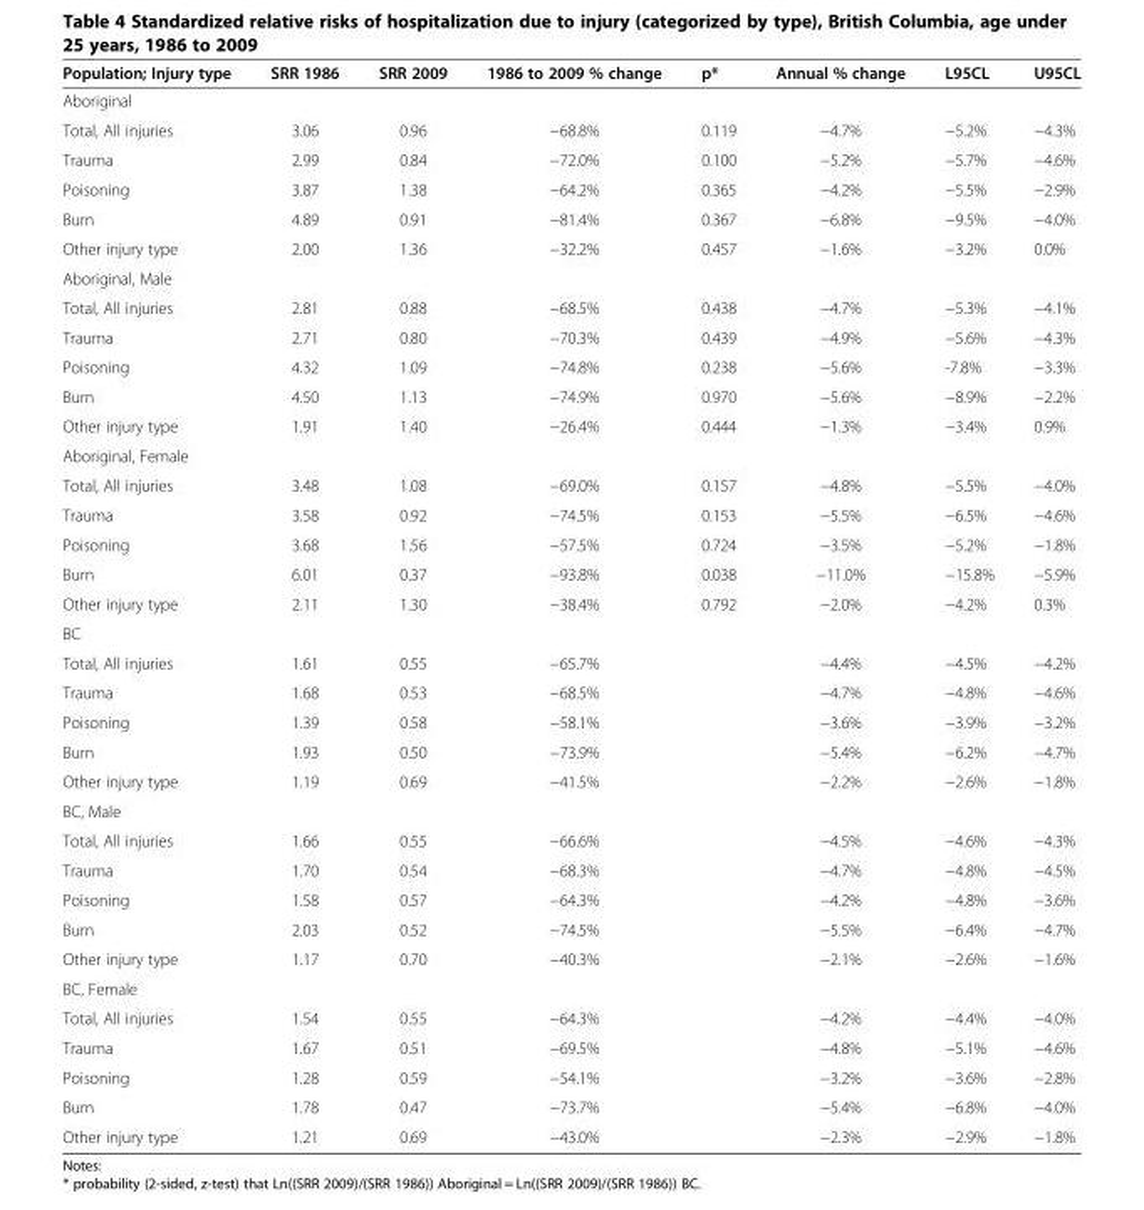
<table><thead><tr><td>Population; Injury type</td><td>SRR 1986</td><td>SRR 2009</td><td>1986 to 2009 % change</td><td>p*</td><td>Annual % change</td><td>L95CL</td><td>U95CL</td></tr></thead><tbody><tr><td colspan="8">Aboriginal</td></tr><tr><td>Total, All injuries</td><td>3.06</td><td>0.96</td><td>−68.8%</td><td>0.119</td><td>−4.7%</td><td>−5.2%</td><td>−4.3%</td></tr><tr><td>Trauma</td><td>2.99</td><td>0.84</td><td>−72.0%</td><td>0.100</td><td>−5.2%</td><td>−5.7%</td><td>−4.6%</td></tr><tr><td>Poisoning</td><td>3.87</td><td>1.38</td><td>−64.2%</td><td>0.365</td><td>−4.2%</td><td>−5.5%</td><td>−2.9%</td></tr><tr><td>Burn</td><td>4.89</td><td>0.91</td><td>−81.4%</td><td>0.367</td><td>−6.8%</td><td>−9.5%</td><td>−4.0%</td></tr><tr><td>Other injury type</td><td>2.00</td><td>1.36</td><td>−32.2%</td><td>0.457</td><td>−1.6%</td><td>−3.2%</td><td>0.0%</td></tr><tr><td colspan="8">Aboriginal, Male</td></tr><tr><td>Total, All injuries</td><td>2.81</td><td>0.88</td><td>−68.5%</td><td>0.438</td><td>−4.7%</td><td>−5.3%</td><td>−4.1%</td></tr><tr><td>Trauma</td><td>2.71</td><td>0.80</td><td>−70.3%</td><td>0.439</td><td>−4.9%</td><td>−5.6%</td><td>−4.3%</td></tr><tr><td>Poisoning</td><td>4.32</td><td>1.09</td><td>−74.8%</td><td>0.238</td><td>−5.6%</td><td>-7.8%</td><td>−3.3%</td></tr><tr><td>Burn</td><td>4.50</td><td>1.13</td><td>−74.9%</td><td>0.970</td><td>−5.6%</td><td>−8.9%</td><td>−2.2%</td></tr><tr><td>Other injury type</td><td>1.91</td><td>1.40</td><td>−26.4%</td><td>0.444</td><td>−1.3%</td><td>−3.4%</td><td>0.9%</td></tr><tr><td colspan="8">Aboriginal, Female</td></tr><tr><td>Total, All injuries</td><td>3.48</td><td>1.08</td><td>−69.0%</td><td>0.157</td><td>−4.8%</td><td>−5.5%</td><td>−4.0%</td></tr><tr><td>Trauma</td><td>3.58</td><td>0.92</td><td>−74.5%</td><td>0.153</td><td>−5.5%</td><td>−6.5%</td><td>−4.6%</td></tr><tr><td>Poisoning</td><td>3.68</td><td>1.56</td><td>−57.5%</td><td>0.724</td><td>−3.5%</td><td>−5.2%</td><td>−1.8%</td></tr><tr><td>Burn</td><td>6.01</td><td>0.37</td><td>−93.8%</td><td>0.038</td><td>−11.0%</td><td>−15.8%</td><td>−5.9%</td></tr><tr><td>Other injury type</td><td>2.11</td><td>1.30</td><td>−38.4%</td><td>0.792</td><td>−2.0%</td><td>−4.2%</td><td>0.3%</td></tr><tr><td colspan="8">BC</td></tr><tr><td>Total, All injuries</td><td>1.61</td><td>0.55</td><td>−65.7%</td><td></td><td>−4.4%</td><td>−4.5%</td><td>−4.2%</td></tr><tr><td>Trauma</td><td>1.68</td><td>0.53</td><td>−68.5%</td><td></td><td>−4.7%</td><td>−4.8%</td><td>−4.6%</td></tr><tr><td>Poisoning</td><td>1.39</td><td>0.58</td><td>−58.1%</td><td></td><td>−3.6%</td><td>−3.9%</td><td>−3.2%</td></tr><tr><td>Burn</td><td>1.93</td><td>0.50</td><td>−73.9%</td><td></td><td>−5.4%</td><td>−6.2%</td><td>−4.7%</td></tr><tr><td>Other injury type</td><td>1.19</td><td>0.69</td><td>−41.5%</td><td></td><td>−2.2%</td><td>−2.6%</td><td>−1.8%</td></tr><tr><td colspan="8">BC, Male</td></tr><tr><td>Total, All injuries</td><td>1.66</td><td>0.55</td><td>−66.6%</td><td></td><td>−4.5%</td><td>−4.6%</td><td>−4.3%</td></tr><tr><td>Trauma</td><td>1.70</td><td>0.54</td><td>−68.3%</td><td></td><td>−4.7%</td><td>−4.8%</td><td>−4.5%</td></tr><tr><td>Poisoning</td><td>1.58</td><td>0.57</td><td>−64.3%</td><td></td><td>−4.2%</td><td>−4.8%</td><td>−3.6%</td></tr><tr><td>Burn</td><td>2.03</td><td>0.52</td><td>−74.5%</td><td></td><td>−5.5%</td><td>−6.4%</td><td>−4.7%</td></tr><tr><td>Other injury type</td><td>1.17</td><td>0.70</td><td>−40.3%</td><td></td><td>−2.1%</td><td>−2.6%</td><td>−1.6%</td></tr><tr><td colspan="8">BC, Female</td></tr><tr><td>Total, All injuries</td><td>1.54</td><td>0.55</td><td>−64.3%</td><td></td><td>−4.2%</td><td>−4.4%</td><td>−4.0%</td></tr><tr><td>Trauma</td><td>1.67</td><td>0.51</td><td>−69.5%</td><td></td><td>−4.8%</td><td>−5.1%</td><td>−4.6%</td></tr><tr><td>Poisoning</td><td>1.28</td><td>0.59</td><td>−54.1%</td><td></td><td>−3.2%</td><td>−3.6%</td><td>−2.8%</td></tr><tr><td>Burn</td><td>1.78</td><td>0.47</td><td>−73.7%</td><td></td><td>−5.4%</td><td>−6.8%</td><td>−4.0%</td></tr><tr><td>Other injury type</td><td>1.21</td><td>0.69</td><td>−43.0%</td><td></td><td>−2.3%</td><td>−2.9%</td><td>−1.8%</td></tr></tbody></table>